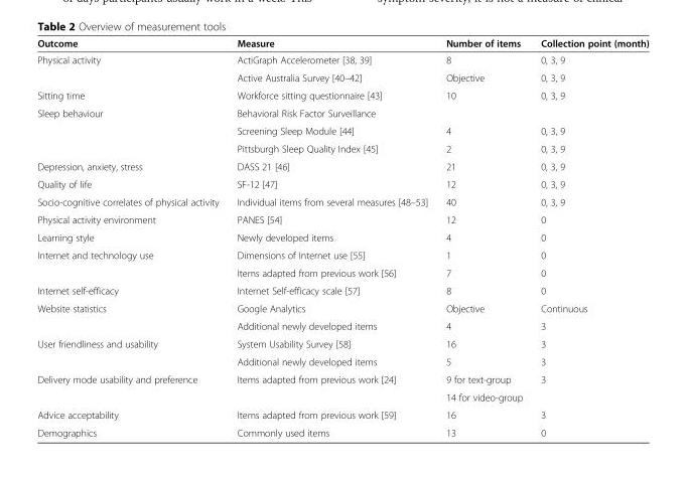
<table><thead><tr><td>Outcome</td><td>Measure</td><td>Number of items</td><td>Collection point (month)</td></tr></thead><tbody><tr><td rowspan="2">Physical activity</td><td>ActiGraph Accelerometer [38, 39]</td><td>8</td><td>0, 3, 9</td></tr><tr><td>Active Australia Survey [40–42]</td><td>Objective</td><td>0, 3, 9</td></tr><tr><td>Sitting time</td><td>Workforce sitting questionnaire [43]</td><td>10</td><td>0, 3, 9</td></tr><tr><td rowspan="3">Sleep behaviour</td><td>Behavioral Risk Factor Surveillance</td><td></td><td></td></tr><tr><td>Screening Sleep Module [44]</td><td>4</td><td>0, 3, 9</td></tr><tr><td>Pittsburgh Sleep Quality Index [45]</td><td>2</td><td>0, 3, 9</td></tr><tr><td>Depression, anxiety, stress</td><td>DASS 21 [46]</td><td>21</td><td>0, 3, 9</td></tr><tr><td>Quality of life</td><td>SF-12 [47]</td><td>12</td><td>0, 3, 9</td></tr><tr><td>Socio-cognitive correlates of physical activity</td><td>Individual items from several measures [48–53]</td><td>40</td><td>0, 3, 9</td></tr><tr><td>Physical activity environment</td><td>PANES [54]</td><td>12</td><td>0</td></tr><tr><td>Learning style</td><td>Newly developed items</td><td>4</td><td>0</td></tr><tr><td rowspan="2">Internet and technology use</td><td>Dimensions of Internet use [55]</td><td>1</td><td>0</td></tr><tr><td>Items adapted from previous work [56]</td><td>7</td><td>0</td></tr><tr><td>Internet self-efficacy</td><td>Internet Self-efficacy scale [57]</td><td>8</td><td>0</td></tr><tr><td rowspan="2">Website statistics</td><td>Google Analytics</td><td>Objective</td><td>Continuous</td></tr><tr><td>Additional newly developed items</td><td>4</td><td>3</td></tr><tr><td rowspan="2">User friendliness and usability</td><td>System Usability Survey [58]</td><td>16</td><td>3</td></tr><tr><td>Additional newly developed items</td><td>5</td><td>3</td></tr><tr><td rowspan="2">Delivery mode usability and preference</td><td rowspan="2">Items adapted from previous work [24]</td><td>9 for text-group</td><td rowspan="2">3</td></tr><tr><td>14 for video-group</td></tr><tr><td>Advice acceptability</td><td>Items adapted from previous work [59]</td><td>16</td><td>3</td></tr><tr><td>Demographics</td><td>Commonly used items</td><td>13</td><td>0</td></tr></tbody></table>